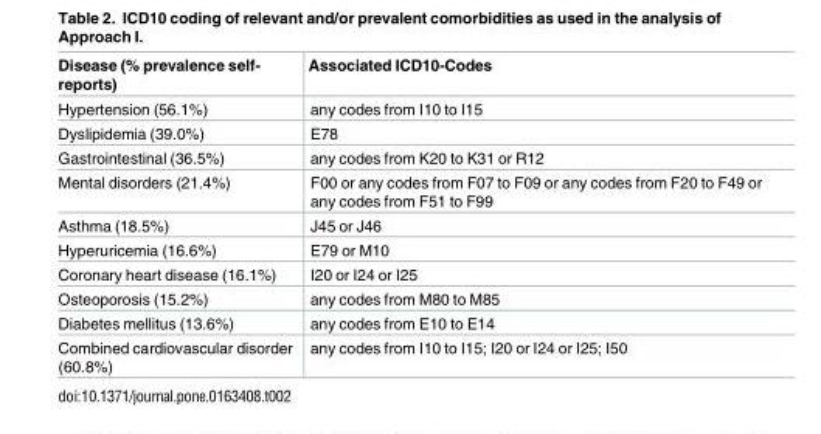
<table><thead><tr><td>Disease (% prevalence self- reports)</td><td>Associated ICD10-Codes</td></tr></thead><tbody><tr><td>Hypertension (56.1%)</td><td>any codes from I10 to I15</td></tr><tr><td>Dyslipidemia (39.0%)</td><td>E78</td></tr><tr><td>Gastrointestinal (36.5%)</td><td>any codes from K20 to K31 or R12</td></tr><tr><td>Mental disorders (21.4%)</td><td>F00 or any codes from F07 to F09 or any codes from F20 to F49 or any codes from F51 to F99</td></tr><tr><td>Asthma (18.5%)</td><td>J45 or J46</td></tr><tr><td>Hyperuricemia (16.6%)</td><td>E79 or M10</td></tr><tr><td>Coronary heart disease (16.1%)</td><td>I20 or I24 or I25</td></tr><tr><td>Osteoporosis (15.2%)</td><td>any codes from M80 to M85</td></tr><tr><td>Diabetes mellitus (13.6%)</td><td>any codes from E10 to E14</td></tr><tr><td>Combined cardiovascular disorder (60.8%)</td><td>any codes from I10 to I15; I20 or I24 or I25; I50</td></tr></tbody></table>